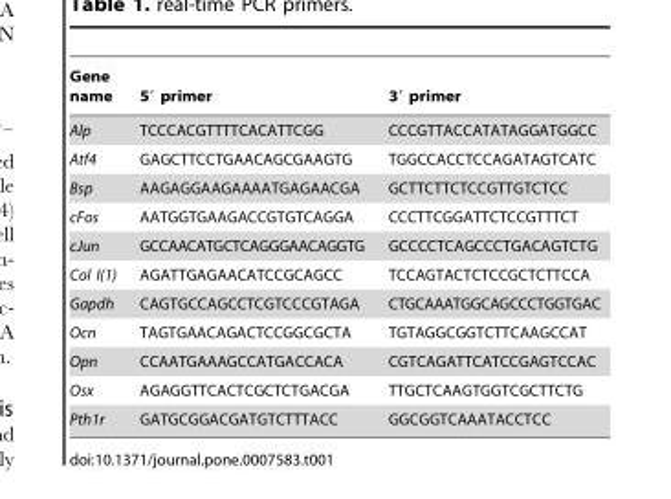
<table><thead><tr><td>Gene name</td><td>5′ primer</td><td>3′ primer</td></tr></thead><tbody><tr><td>Alp</td><td>TCCCACGTTTTCACATTCGG</td><td>CCCGTTACCATATAGGATGGCC</td></tr><tr><td>Atf4</td><td>GAGCTTCCTGAACAGCGAAGTG</td><td>TGGCCACCTCCAGATAGTCATC</td></tr><tr><td>Bsp</td><td>AAGAGGAAGAAAATGAGAACGA</td><td>GCTTCTTCTCCGTTGTCTCC</td></tr><tr><td>cFos</td><td>AATGGTGAAGACCGTGTCAGGA</td><td>CCCTTCGGATTCTCCGTTTCT</td></tr><tr><td>cJun</td><td>GCCAACATGCTCAGGGAACAGGTG</td><td>GCCCCTCAGCCCTGACAGTCTG</td></tr><tr><td>Col I(1)</td><td>AGATTGAGAACATCCGCAGCC</td><td>TCCAGTACTCTCCGCTCTTCCA</td></tr><tr><td>Gapdh</td><td>CAGTGCCAGCCTCGTCCCGTAGA</td><td>CTGCAAATGGCAGCCCTGGTGAC</td></tr><tr><td>Ocn</td><td>TAGTGAACAGACTCCGGCGCTA</td><td>TGTAGGCGGTCTTCAAGCCAT</td></tr><tr><td>Opn</td><td>CCAATGAAAGCCATGACCACA</td><td>CGTCAGATTCATCCGAGTCCAC</td></tr><tr><td>Osx</td><td>AGAGGTTCACTCGCTCTGACGA</td><td>TTGCTCAAGTGGTCGCTTCTG</td></tr><tr><td>Pth1r</td><td>GATGCGGACGATGTCTTTACC</td><td>GGCGGTCAAATACCTCC</td></tr></tbody></table>